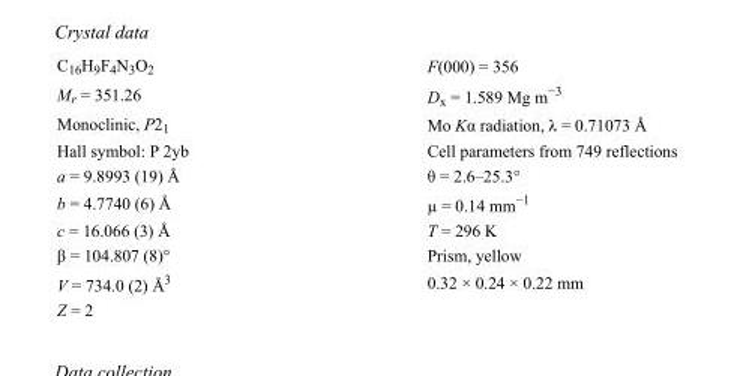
<table><tbody><tr><td>C<sub>16</sub>H<sub>9</sub>F<sub>4</sub>N<sub>3</sub>O<sub>2</sub></td><td>F(000) = 356</td></tr><tr><td>M<sub>r</sub> = 351.26</td><td>D<sub>x</sub> = 1.589 Mg m<sup>−3</sup></td></tr><tr><td>Monoclinic, P2<sub>1</sub></td><td>Mo Kα radiation, λ = 0.71073 Å</td></tr><tr><td>Hall symbol: P 2yb</td><td>Cell parameters from 749 reflections</td></tr><tr><td>a = 9.8993 (19) Å</td><td>θ = 2.6–25.3°</td></tr><tr><td>b = 4.7740 (6) Å</td><td>µ = 0.14 mm<sup>−1</sup></td></tr><tr><td>c = 16.066 (3) Å</td><td>T = 296 K</td></tr><tr><td>β = 104.807 (8)°</td><td>Prism, yellow</td></tr><tr><td>V = 734.0 (2) Å<sup>3</sup></td><td>0.32 × 0.24 × 0.22 mm</td></tr><tr><td>Z = 2</td><td></td></tr></tbody></table>